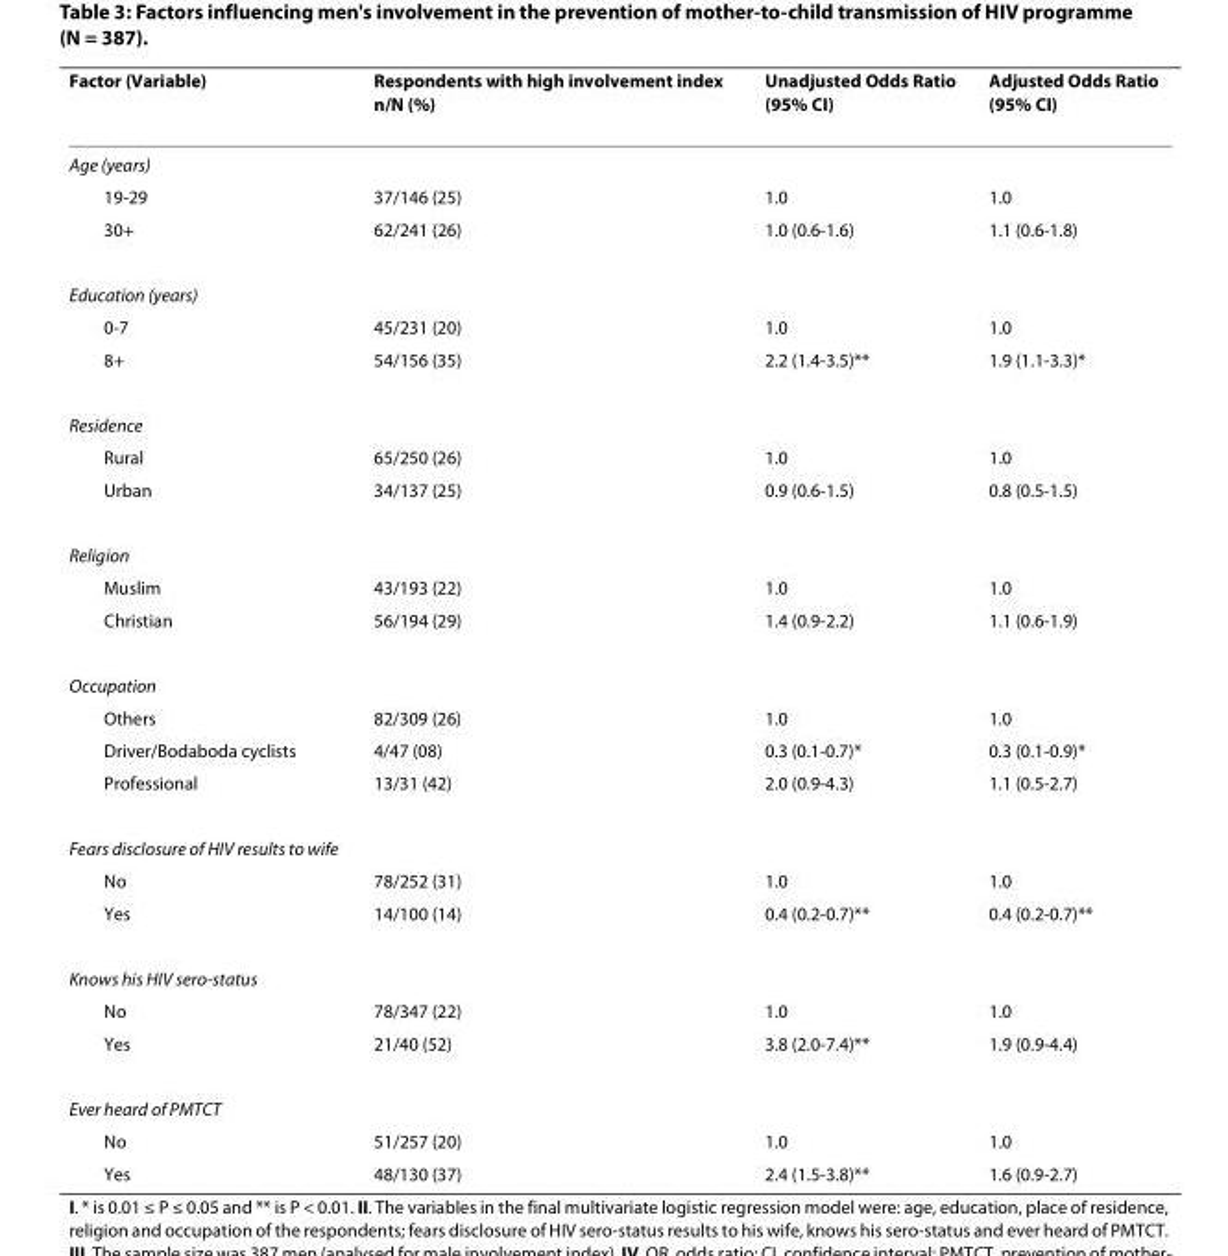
<table><thead><tr><td>Factor (Variable)</td><td>Respondents with high involvement index n/N (%)</td><td>Unadjusted Odds Ratio (95% CI)</td><td>Adjusted Odds Ratio (95% CI)</td></tr></thead><tbody><tr><td colspan="4">Age (years)</td></tr><tr><td>19-29</td><td>37/146 (25)</td><td>1.0</td><td>1.0</td></tr><tr><td>30+</td><td>62/241 (26)</td><td>1.0 (0.6-1.6)</td><td>1.1 (0.6-1.8)</td></tr><tr><td colspan="4">Education (years)</td></tr><tr><td>0-7</td><td>45/231 (20)</td><td>1.0</td><td>1.0</td></tr><tr><td>8+</td><td>54/156 (35)</td><td>2.2 (1.4-3.5)**</td><td>1.9 (1.1-3.3)*</td></tr><tr><td colspan="4">Residence</td></tr><tr><td>Rural</td><td>65/250 (26)</td><td>1.0</td><td>1.0</td></tr><tr><td>Urban</td><td>34/137 (25)</td><td>0.9 (0.6-1.5)</td><td>0.8 (0.5-1.5)</td></tr><tr><td colspan="4">Religion</td></tr><tr><td>Muslim</td><td>43/193 (22)</td><td>1.0</td><td>1.0</td></tr><tr><td>Christian</td><td>56/194 (29)</td><td>1.4 (0.9-2.2)</td><td>1.1 (0.6-1.9)</td></tr><tr><td colspan="4">Occupation</td></tr><tr><td>Others</td><td>82/309 (26)</td><td>1.0</td><td>1.0</td></tr><tr><td>Driver/Bodaboda cyclists</td><td>4/47 (08)</td><td>0.3 (0.1-0.7)*</td><td>0.3 (0.1-0.9)*</td></tr><tr><td>Professional</td><td>13/31 (42)</td><td>2.0 (0.9-4.3)</td><td>1.1 (0.5-2.7)</td></tr><tr><td colspan="4">Fears disclosure of HIV results to wife</td></tr><tr><td>No</td><td>78/252 (31)</td><td>1.0</td><td>1.0</td></tr><tr><td>Yes</td><td>14/100 (14)</td><td>0.4 (0.2-0.7)**</td><td>0.4 (0.2-0.7)**</td></tr><tr><td colspan="4">Knows his HIV sero-status</td></tr><tr><td>No</td><td>78/347 (22)</td><td>1.0</td><td>1.0</td></tr><tr><td>Yes</td><td>21/40 (52)</td><td>3.8 (2.0-7.4)**</td><td>1.9 (0.9-4.4)</td></tr><tr><td colspan="4">Ever heard of PMTCT</td></tr><tr><td>No</td><td>51/257 (20)</td><td>1.0</td><td>1.0</td></tr><tr><td>Yes</td><td>48/130 (37)</td><td>2.4 (1.5-3.8)**</td><td>1.6 (0.9-2.7)</td></tr></tbody></table>